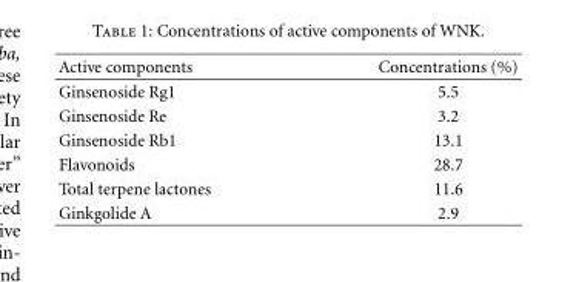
<table><thead><tr><td>Active components</td><td>Concentrations (%)</td></tr></thead><tbody><tr><td>Ginsenoside Rg1</td><td>5.5</td></tr><tr><td>Ginsenoside Re</td><td>3.2</td></tr><tr><td>Ginsenoside Rb1</td><td>13.1</td></tr><tr><td>Flavonoids</td><td>28.7</td></tr><tr><td>Total terpene lactones</td><td>11.6</td></tr><tr><td>Ginkgolide A</td><td>2.9</td></tr></tbody></table>